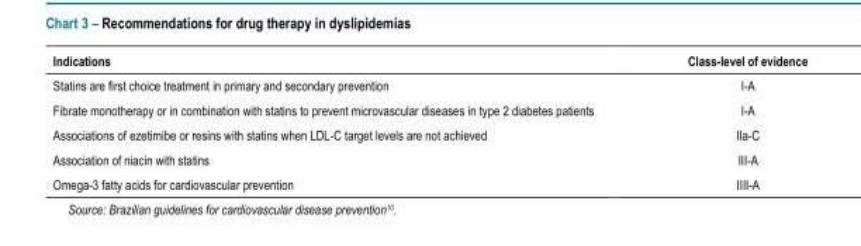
<table><thead><tr><td>Indications</td><td>Class-level of evidence</td></tr></thead><tbody><tr><td>Statins are first choice treatment in primary and secondary prevention</td><td>I-A</td></tr><tr><td>Fibrate monotherapy or in combination with statins to prevent microvascular diseases in type 2 diabetes patients</td><td>I-A</td></tr><tr><td>Associations of ezetimibe or resins with statins when LDL-C target levels are not achieved</td><td>IIa-C</td></tr><tr><td>Association of niacin with statins</td><td>III-A</td></tr><tr><td>Omega-3 fatty acids for cardiovascular prevention</td><td>IIII-A</td></tr></tbody></table>